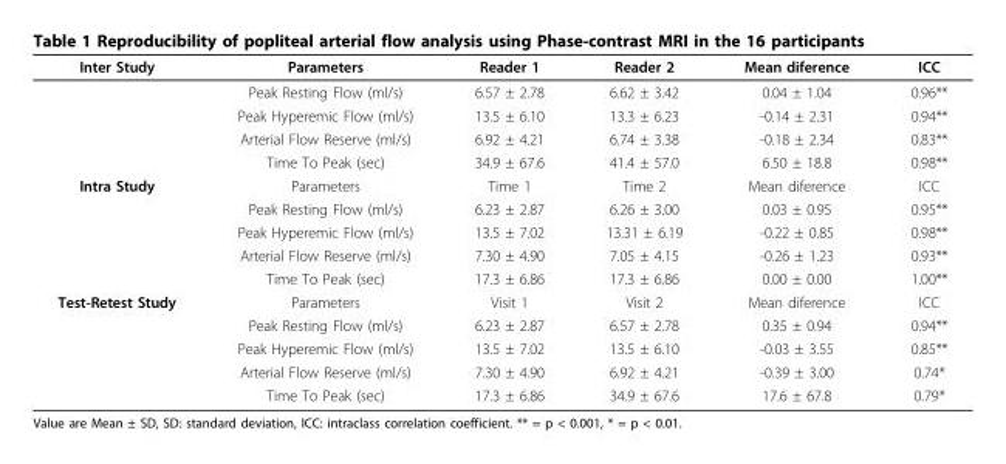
<table><thead><tr><td>Inter Study</td><td>Parameters</td><td>Reader 1</td><td>Reader 2</td><td>Mean diference</td><td>ICC</td></tr></thead><tbody><tr><td></td><td>Peak Resting Flow (ml/s)</td><td>6.57 ± 2.78</td><td>6.62 ± 3.42</td><td>0.04 ± 1.04</td><td>0.96**</td></tr><tr><td></td><td>Peak Hyperemic Flow (ml/s)</td><td>13.5 ± 6.10</td><td>13.3 ± 6.23</td><td>-0.14 ± 2.31</td><td>0.94**</td></tr><tr><td></td><td>Arterial Flow Reserve (ml/s)</td><td>6.92 ± 4.21</td><td>6.74 ± 3.38</td><td>-0.18 ± 2.34</td><td>0.83**</td></tr><tr><td></td><td>Time To Peak (sec)</td><td>34.9 ± 67.6</td><td>41.4 ± 57.0</td><td>6.50 ± 18.8</td><td>0.98**</td></tr><tr><td rowspan="5">Intra Study</td><td>Parameters</td><td>Time 1</td><td>Time 2</td><td>Mean diference</td><td>ICC</td></tr><tr><td>Peak Resting Flow (ml/s)</td><td>6.23 ± 2.87</td><td>6.26 ± 3.00</td><td>0.03 ± 0.95</td><td>0.95**</td></tr><tr><td>Peak Hyperemic Flow (ml/s)</td><td>13.5 ± 7.02</td><td>13.31 ± 6.19</td><td>-0.22 ± 0.85</td><td>0.98**</td></tr><tr><td>Arterial Flow Reserve (ml/s)</td><td>7.30 ± 4.90</td><td>7.05 ± 4.15</td><td>-0.26 ± 1.23</td><td>0.93**</td></tr><tr><td>Time To Peak (sec)</td><td>17.3 ± 6.86</td><td>17.3 ± 6.86</td><td>0.00 ± 0.00</td><td>1.00**</td></tr><tr><td rowspan="5">Test-Retest Study</td><td>Parameters</td><td>Visit 1</td><td>Visit 2</td><td>Mean diference</td><td>ICC</td></tr><tr><td>Peak Resting Flow (ml/s)</td><td>6.23 ± 2.87</td><td>6.57 ± 2.78</td><td>0.35 ± 0.94</td><td>0.94**</td></tr><tr><td>Peak Hyperemic Flow (ml/s)</td><td>13.5 ± 7.02</td><td>13.5 ± 6.10</td><td>-0.03 ± 3.55</td><td>0.85**</td></tr><tr><td>Arterial Flow Reserve (ml/s)</td><td>7.30 ± 4.90</td><td>6.92 ± 4.21</td><td>-0.39 ± 3.00</td><td>0.74*</td></tr><tr><td>Time To Peak (sec)</td><td>17.3 ± 6.86</td><td>34.9 ± 67.6</td><td>17.6 ± 67.8</td><td>0.79*</td></tr></tbody></table>